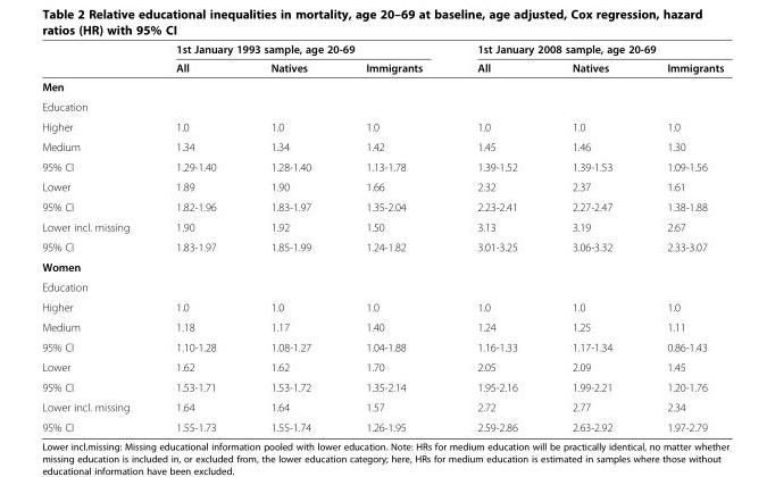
<table><thead><tr><td rowspan="2"></td><td colspan="3">1st January 1993 sample, age 20-69</td><td colspan="3">1st January 2008 sample, age 20-69</td></tr><tr><td>All</td><td>Natives</td><td>Immigrants</td><td>All</td><td>Natives</td><td>Immigrants</td></tr></thead><tbody><tr><td colspan="7">Men</td></tr><tr><td colspan="7">Education</td></tr><tr><td>Higher</td><td>1.0</td><td>1.0</td><td>1.0</td><td>1.0</td><td>1.0</td><td>1.0</td></tr><tr><td>Medium</td><td>1.34</td><td>1.34</td><td>1.42</td><td>1.45</td><td>1.46</td><td>1.30</td></tr><tr><td>95% CI</td><td>1.29-1.40</td><td>1.28-1.40</td><td>1.13-1.78</td><td>1.39-1.52</td><td>1.39-1.53</td><td>1.09-1.56</td></tr><tr><td>Lower</td><td>1.89</td><td>1.90</td><td>1.66</td><td>2.32</td><td>2.37</td><td>1.61</td></tr><tr><td>95% CI</td><td>1.82-1.96</td><td>1.83-1.97</td><td>1.35-2.04</td><td>2.23-2.41</td><td>2.27-2.47</td><td>1.38-1.88</td></tr><tr><td>Lower incl. missing</td><td>1.90</td><td>1.92</td><td>1.50</td><td>3.13</td><td>3.19</td><td>2.67</td></tr><tr><td>95% CI</td><td>1.83-1.97</td><td>1.85-1.99</td><td>1.24-1.82</td><td>3.01-3.25</td><td>3.06-3.32</td><td>2.33-3.07</td></tr><tr><td colspan="7">Women</td></tr><tr><td colspan="7">Education</td></tr><tr><td>Higher</td><td>1.0</td><td>1.0</td><td>1.0</td><td>1.0</td><td>1.0</td><td>1.0</td></tr><tr><td>Medium</td><td>1.18</td><td>1.17</td><td>1.40</td><td>1.24</td><td>1.25</td><td>1.11</td></tr><tr><td>95% CI</td><td>1.10-1.28</td><td>1.08-1.27</td><td>1.04-1.88</td><td>1.16-1.33</td><td>1.17-1.34</td><td>0.86-1.43</td></tr><tr><td>Lower</td><td>1.62</td><td>1.62</td><td>1.70</td><td>2.05</td><td>2.09</td><td>1.45</td></tr><tr><td>95% CI</td><td>1.53-1.71</td><td>1.53-1.72</td><td>1.35-2.14</td><td>1.95-2.16</td><td>1.99-2.21</td><td>1.20-1.76</td></tr><tr><td>Lower incl. missing</td><td>1.64</td><td>1.64</td><td>1.57</td><td>2.72</td><td>2.77</td><td>2.34</td></tr><tr><td>95% CI</td><td>1.55-1.73</td><td>1.55-1.74</td><td>1.26-1.95</td><td>2.59-2.86</td><td>2.63-2.92</td><td>1.97-2.79</td></tr></tbody></table>